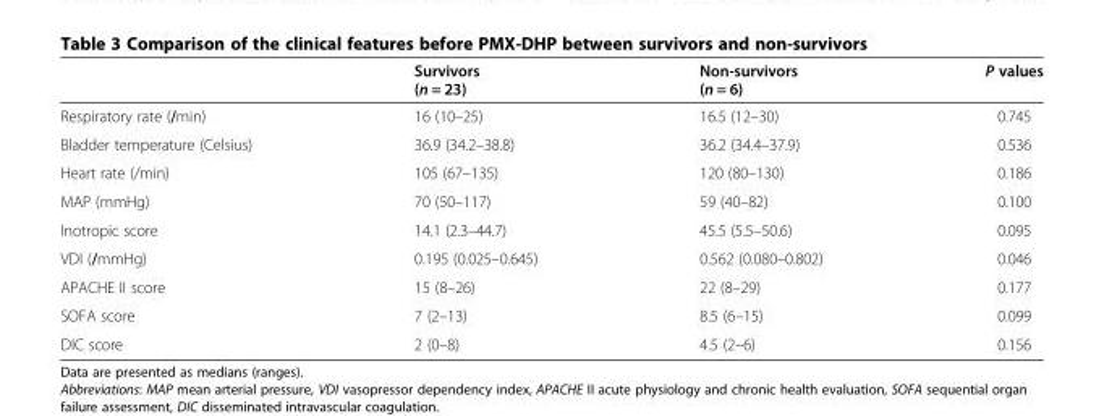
<table><thead><tr><td></td><td>Survivors (n = 23)</td><td>Non-survivors (n = 6)</td><td>P values</td></tr></thead><tbody><tr><td>Respiratory rate (/min)</td><td>16 (10–25)</td><td>16.5 (12–30)</td><td>0.745</td></tr><tr><td>Bladder temperature (Celsius)</td><td>36.9 (34.2–38.8)</td><td>36.2 (34.4–37.9)</td><td>0.536</td></tr><tr><td>Heart rate (/min)</td><td>105 (67–135)</td><td>120 (80–130)</td><td>0.186</td></tr><tr><td>MAP (mmHg)</td><td>70 (50–117)</td><td>59 (40–82)</td><td>0.100</td></tr><tr><td>Inotropic score</td><td>14.1 (2.3–44.7)</td><td>45.5 (5.5–50.6)</td><td>0.095</td></tr><tr><td>VDI (/mmHg)</td><td>0.195 (0.025–0.645)</td><td>0.562 (0.080–0.802)</td><td>0.046</td></tr><tr><td>APACHE II score</td><td>15 (8–26)</td><td>22 (8–29)</td><td>0.177</td></tr><tr><td>SOFA score</td><td>7 (2–13)</td><td>8.5 (6–15)</td><td>0.099</td></tr><tr><td>DIC score</td><td>2 (0–8)</td><td>4.5 (2–6)</td><td>0.156</td></tr></tbody></table>